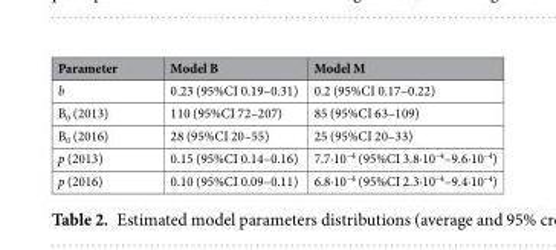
<table><thead><tr><td>Parameter</td><td>Model B</td><td>Model M</td></tr></thead><tbody><tr><td>b</td><td>0.23 (95%CI 0.19–0.31)</td><td>0.2 (95%CI 0.17–0.22)</td></tr><tr><td>B<sub>0</sub> (2013)</td><td>110 (95%CI 72–207)</td><td>85 (95%CI 63–109)</td></tr><tr><td>B<sub>0</sub> (2016)</td><td>28 (95%CI 20–55)</td><td>25 (95%CI 20–33)</td></tr><tr><td>p (2013)</td><td>0.15 (95%CI 0.14–0.16)</td><td>7.7∙10<sup>–4</sup> (95%CI 3.8∙10<sup>–4</sup>–9.6∙10<sup>–4</sup>)</td></tr><tr><td>p (2016)</td><td>0.10 (95%CI 0.09–0.11)</td><td>6.8∙10<sup>–4</sup> (95%CI 2.3∙10<sup>–4</sup>–9.4∙10<sup>–4</sup>)</td></tr></tbody></table>